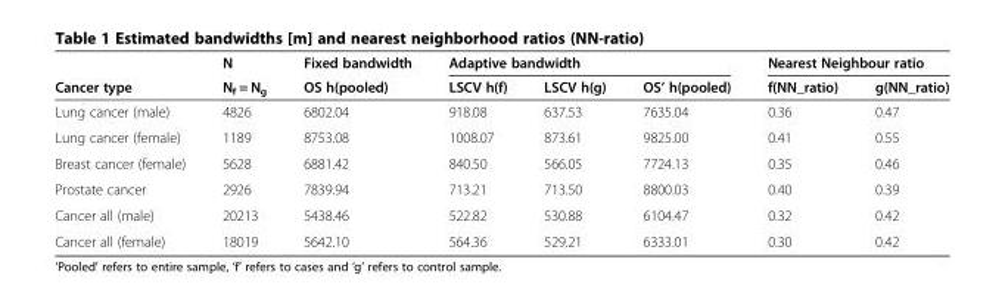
<table><thead><tr><td rowspan="2">Cancer type</td><td rowspan="2">N N<sub>f</sub> = N<sub>g</sub></td><td rowspan="2">Fixed bandwidth OS h(pooled)</td><td colspan="3">Adaptive bandwidth</td><td colspan="2">Nearest Neighbour ratio</td></tr><tr><td>LSCV h(f)</td><td>LSCV h(g)</td><td>OS’ h(pooled)</td><td>f(NN_ratio)</td><td>g(NN_ratio)</td></tr></thead><tbody><tr><td>Lung cancer (male)</td><td>4826</td><td>6802.04</td><td>918.08</td><td>637.53</td><td>7635.04</td><td>0.36</td><td>0.47</td></tr><tr><td>Lung cancer (female)</td><td>1189</td><td>8753.08</td><td>1008.07</td><td>873.61</td><td>9825.00</td><td>0.41</td><td>0.55</td></tr><tr><td>Breast cancer (female)</td><td>5628</td><td>6881.42</td><td>840.50</td><td>566.05</td><td>7724.13</td><td>0.35</td><td>0.46</td></tr><tr><td>Prostate cancer</td><td>2926</td><td>7839.94</td><td>713.21</td><td>713.50</td><td>8800.03</td><td>0.40</td><td>0.39</td></tr><tr><td>Cancer all (male)</td><td>20213</td><td>5438.46</td><td>522.82</td><td>530.88</td><td>6104.47</td><td>0.32</td><td>0.42</td></tr><tr><td>Cancer all (female)</td><td>18019</td><td>5642.10</td><td>564.36</td><td>529.21</td><td>6333.01</td><td>0.30</td><td>0.42</td></tr></tbody></table>